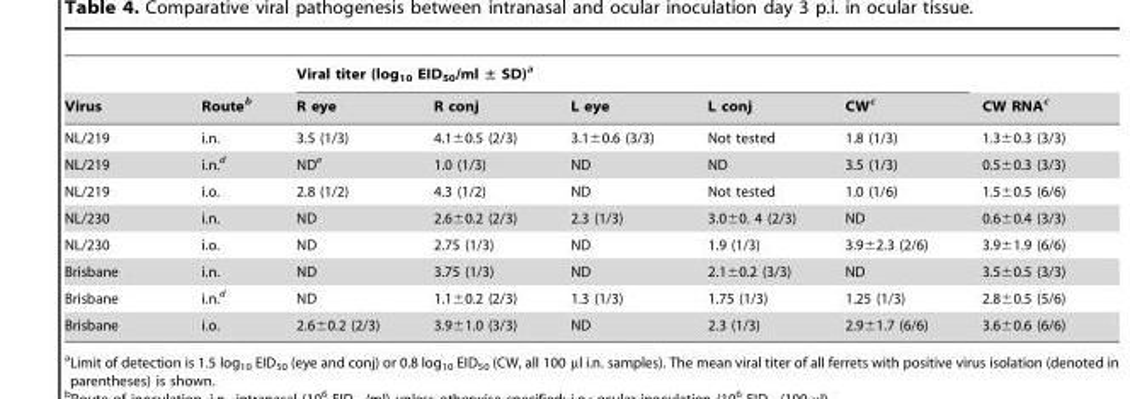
<table><thead><tr><td rowspan="2">Virus</td><td rowspan="2">Route<sup>b</sup></td><td colspan="5">Viral titer (log<sub>10</sub> EID<sub>50</sub>/ml ± SD)<sup>a</sup></td><td rowspan="2">CW RNA<sup>c</sup></td></tr><tr><td>R eye</td><td>R conj</td><td>L eye</td><td>L conj</td><td>CW<sup>c</sup></td></tr></thead><tbody><tr><td>NL/219</td><td>i.n.</td><td>3.5 (1/3)</td><td>4.1±0.5 (2/3)</td><td>3.1±0.6 (3/3)</td><td>Not tested</td><td>1.8 (1/3)</td><td>1.3±0.3 (3/3)</td></tr><tr><td>NL/219</td><td>i.n.<sup>d</sup></td><td>ND<sup>e</sup></td><td>1.0 (1/3)</td><td>ND</td><td>ND</td><td>3.5 (1/3)</td><td>0.5±0.3 (3/3)</td></tr><tr><td>NL/219</td><td>i.o.</td><td>2.8 (1/2)</td><td>4.3 (1/2)</td><td>ND</td><td>Not tested</td><td>1.0 (1/6)</td><td>1.5±0.5 (6/6)</td></tr><tr><td>NL/230</td><td>i.n.</td><td>ND</td><td>2.6±0.2 (2/3)</td><td>2.3 (1/3)</td><td>3.0±0. 4 (2/3)</td><td>ND</td><td>0.6±0.4 (3/3)</td></tr><tr><td>NL/230</td><td>i.o.</td><td>ND</td><td>2.75 (1/3)</td><td>ND</td><td>1.9 (1/3)</td><td>3.9±2.3 (2/6)</td><td>3.9±1.9 (6/6)</td></tr><tr><td>Brisbane</td><td>i.n.</td><td>ND</td><td>3.75 (1/3)</td><td>ND</td><td>2.1±0.2 (3/3)</td><td>ND</td><td>3.5±0.5 (3/3)</td></tr><tr><td>Brisbane</td><td>i.n.<sup>d</sup></td><td>ND</td><td>1.1±0.2 (2/3)</td><td>1.3 (1/3)</td><td>1.75 (1/3)</td><td>1.25 (1/3)</td><td>2.8±0.5 (5/6)</td></tr><tr><td>Brisbane</td><td>i.o.</td><td>2.6±0.2 (2/3)</td><td>3.9±1.0 (3/3)</td><td>ND</td><td>2.3 (1/3)</td><td>2.9±1.7 (6/6)</td><td>3.6±0.6 (6/6)</td></tr></tbody></table>